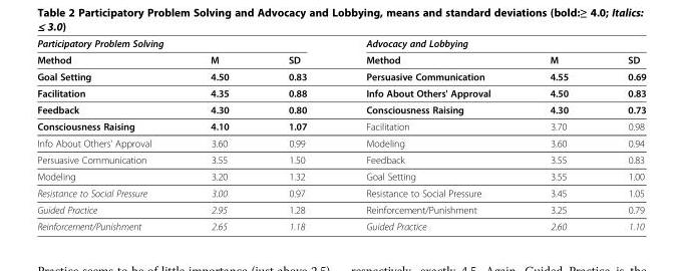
<table><thead><tr><td colspan="3">Participatory Problem Solving</td><td colspan="3">Advocacy and Lobbying</td></tr><tr><td>Method</td><td>M</td><td>SD</td><td>Method</td><td>M</td><td>SD</td></tr></thead><tbody><tr><td>Goal Setting</td><td>4.50</td><td>0.83</td><td>Persuasive Communication</td><td>4.55</td><td>0.69</td></tr><tr><td>Facilitation</td><td>4.35</td><td>0.88</td><td>Info About Others&#x27; Approval</td><td>4.50</td><td>0.83</td></tr><tr><td>Feedback</td><td>4.30</td><td>0.80</td><td>Consciousness Raising</td><td>4.30</td><td>0.73</td></tr><tr><td>Consciousness Raising</td><td>4.10</td><td>1.07</td><td>Facilitation</td><td>3.70</td><td>0.98</td></tr><tr><td>Info About Others&#x27; Approval</td><td>3.60</td><td>0.99</td><td>Modeling</td><td>3.60</td><td>0.94</td></tr><tr><td>Persuasive Communication</td><td>3.55</td><td>1.50</td><td>Feedback</td><td>3.55</td><td>0.83</td></tr><tr><td>Modeling</td><td>3.20</td><td>1.32</td><td>Goal Setting</td><td>3.55</td><td>1.00</td></tr><tr><td>Resistance to Social Pressure</td><td>3.00</td><td>0.97</td><td>Resistance to Social Pressure</td><td>3.45</td><td>1.05</td></tr><tr><td>Guided Practice</td><td>2.95</td><td>1.28</td><td>Reinforcement/Punishment</td><td>3.25</td><td>0.79</td></tr><tr><td>Reinforcement/Punishment</td><td>2.65</td><td>1.18</td><td>Guided Practice</td><td>2.60</td><td>1.10</td></tr></tbody></table>